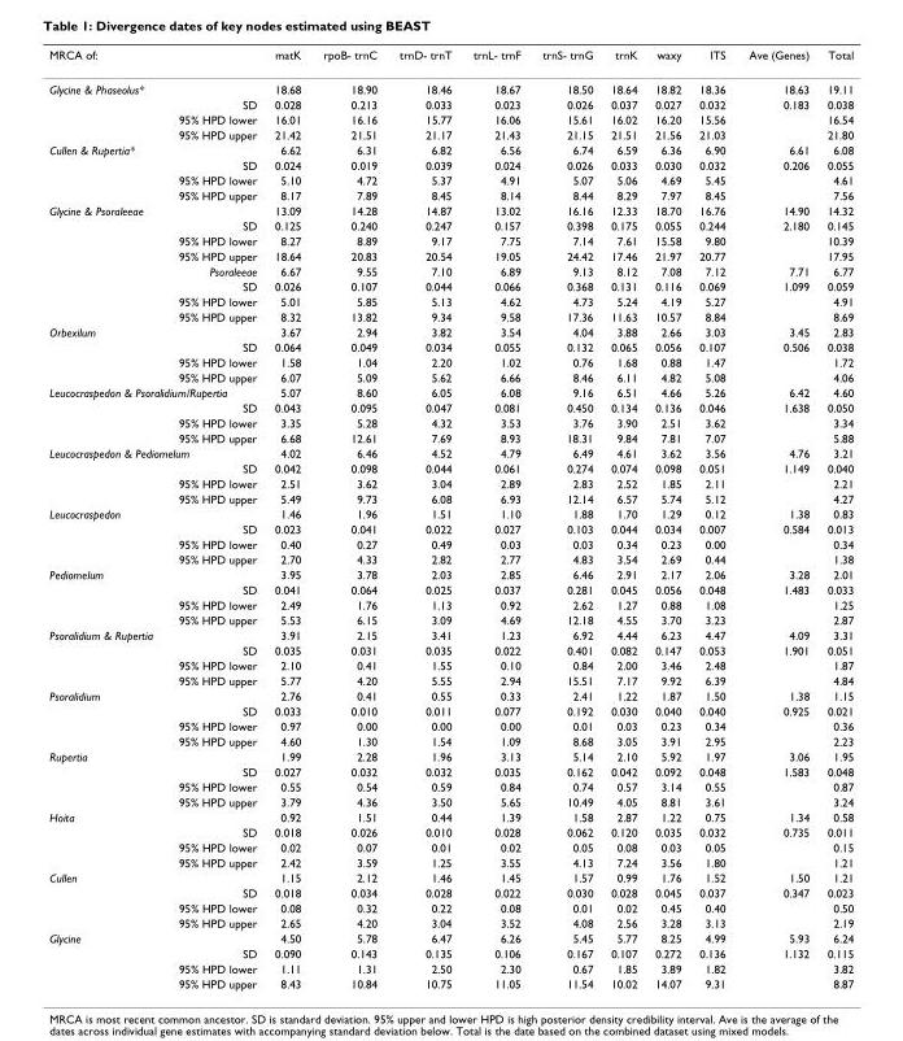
<table><thead><tr><td>MRCA of:</td><td>matK</td><td>rpoB- trnC</td><td>trnD- trnT</td><td>trnL- trnF</td><td>trnS- trnG</td><td>trnK</td><td>waxy</td><td>ITS</td><td>Ave (Genes)</td><td>Total</td></tr></thead><tbody><tr><td>Glycine &amp; Phaseolus*</td><td>18.68</td><td>18.90</td><td>18.46</td><td>18.67</td><td>18.50</td><td>18.64</td><td>18.82</td><td>18.36</td><td>18.63</td><td>19.11</td></tr><tr><td>SD</td><td>0.028</td><td>0.213</td><td>0.033</td><td>0.023</td><td>0.026</td><td>0.037</td><td>0.027</td><td>0.032</td><td>0.183</td><td>0.038</td></tr><tr><td>95% HPD lower</td><td>16.01</td><td>16.16</td><td>15.77</td><td>16.06</td><td>15.61</td><td>16.02</td><td>16.20</td><td>15.56</td><td></td><td>16.54</td></tr><tr><td>95% HPD upper</td><td>21.42</td><td>21.51</td><td>21.17</td><td>21.43</td><td>21.15</td><td>21.51</td><td>21.56</td><td>21.03</td><td></td><td>21.80</td></tr><tr><td>Cullen &amp; Rupertia*</td><td>6.62</td><td>6.31</td><td>6.82</td><td>6.56</td><td>6.74</td><td>6.59</td><td>6.36</td><td>6.90</td><td>6.61</td><td>6.08</td></tr><tr><td>SD</td><td>0.024</td><td>0.019</td><td>0.039</td><td>0.024</td><td>0.026</td><td>0.033</td><td>0.030</td><td>0.032</td><td>0.206</td><td>0.055</td></tr><tr><td>95% HPD lower</td><td>5.10</td><td>4.72</td><td>5.37</td><td>4.91</td><td>5.07</td><td>5.06</td><td>4.69</td><td>5.45</td><td></td><td>4.61</td></tr><tr><td>95% HPD upper</td><td>8.17</td><td>7.89</td><td>8.45</td><td>8.14</td><td>8.44</td><td>8.29</td><td>7.97</td><td>8.45</td><td></td><td>7.56</td></tr><tr><td>Glycine &amp; Psoraleeae</td><td>13.09</td><td>14.28</td><td>14.87</td><td>13.02</td><td>16.16</td><td>12.33</td><td>18.70</td><td>16.76</td><td>14.90</td><td>14.32</td></tr><tr><td>SD</td><td>0.125</td><td>0.240</td><td>0.247</td><td>0.157</td><td>0.398</td><td>0.175</td><td>0.055</td><td>0.244</td><td>2.180</td><td>0.145</td></tr><tr><td>95% HPD lower</td><td>8.27</td><td>8.89</td><td>9.17</td><td>7.75</td><td>7.14</td><td>7.61</td><td>15.58</td><td>9.80</td><td></td><td>10.39</td></tr><tr><td>95% HPD upper</td><td>18.64</td><td>20.83</td><td>20.54</td><td>19.05</td><td>24.42</td><td>17.46</td><td>21.97</td><td>20.77</td><td></td><td>17.95</td></tr><tr><td>Psoraleeae</td><td>6.67</td><td>9.55</td><td>7.10</td><td>6.89</td><td>9.13</td><td>8.12</td><td>7.08</td><td>7.12</td><td>7.71</td><td>6.77</td></tr><tr><td>SD</td><td>0.026</td><td>0.107</td><td>0.044</td><td>0.066</td><td>0.368</td><td>0.131</td><td>0.116</td><td>0.069</td><td>1.099</td><td>0.059</td></tr><tr><td>95% HPD lower</td><td>5.01</td><td>5.85</td><td>5.13</td><td>4.62</td><td>4.73</td><td>5.24</td><td>4.19</td><td>5.27</td><td></td><td>4.91</td></tr><tr><td>95% HPD upper</td><td>8.32</td><td>13.82</td><td>9.34</td><td>9.58</td><td>17.36</td><td>11.63</td><td>10.57</td><td>8.84</td><td></td><td>8.69</td></tr><tr><td>Orbexilum</td><td>3.67</td><td>2.94</td><td>3.82</td><td>3.54</td><td>4.04</td><td>3.88</td><td>2.66</td><td>3.03</td><td>3.45</td><td>2.83</td></tr><tr><td>SD</td><td>0.064</td><td>0.049</td><td>0.034</td><td>0.055</td><td>0.132</td><td>0.065</td><td>0.056</td><td>0.107</td><td>0.506</td><td>0.038</td></tr><tr><td>95% HPD lower</td><td>1.58</td><td>1.04</td><td>2.20</td><td>1.02</td><td>0.76</td><td>1.68</td><td>0.88</td><td>1.47</td><td></td><td>1.72</td></tr><tr><td>95% HPD upper</td><td>6.07</td><td>5.09</td><td>5.62</td><td>6.66</td><td>8.46</td><td>6.11</td><td>4.82</td><td>5.08</td><td></td><td>4.06</td></tr><tr><td>Leucocraspedon &amp; Psoralidium/Rupertia</td><td>5.07</td><td>8.60</td><td>6.05</td><td>6.08</td><td>9.16</td><td>6.51</td><td>4.66</td><td>5.26</td><td>6.42</td><td>4.60</td></tr><tr><td>SD</td><td>0.043</td><td>0.095</td><td>0.047</td><td>0.081</td><td>0.450</td><td>0.134</td><td>0.136</td><td>0.046</td><td>1.638</td><td>0.050</td></tr><tr><td>95% HPD lower</td><td>3.35</td><td>5.28</td><td>4.32</td><td>3.53</td><td>3.76</td><td>3.90</td><td>2.51</td><td>3.62</td><td></td><td>3.34</td></tr><tr><td>95% HPD upper</td><td>6.68</td><td>12.61</td><td>7.69</td><td>8.93</td><td>18.31</td><td>9.84</td><td>7.81</td><td>7.07</td><td></td><td>5.88</td></tr><tr><td>Leucocraspedon &amp; Pediomelum</td><td>4.02</td><td>6.46</td><td>4.52</td><td>4.79</td><td>6.49</td><td>4.61</td><td>3.62</td><td>3.56</td><td>4.76</td><td>3.21</td></tr><tr><td>SD</td><td>0.042</td><td>0.098</td><td>0.044</td><td>0.061</td><td>0.274</td><td>0.074</td><td>0.098</td><td>0.051</td><td>1.149</td><td>0.040</td></tr><tr><td>95% HPD lower</td><td>2.51</td><td>3.62</td><td>3.04</td><td>2.89</td><td>2.83</td><td>2.52</td><td>1.85</td><td>2.11</td><td></td><td>2.21</td></tr><tr><td>95% HPD upper</td><td>5.49</td><td>9.73</td><td>6.08</td><td>6.93</td><td>12.14</td><td>6.57</td><td>5.74</td><td>5.12</td><td></td><td>4.27</td></tr><tr><td>Leucocraspedon</td><td>1.46</td><td>1.96</td><td>1.51</td><td>1.10</td><td>1.88</td><td>1.70</td><td>1.29</td><td>0.12</td><td>1.38</td><td>0.83</td></tr><tr><td>SD</td><td>0.023</td><td>0.041</td><td>0.022</td><td>0.027</td><td>0.103</td><td>0.044</td><td>0.034</td><td>0.007</td><td>0.584</td><td>0.013</td></tr><tr><td>95% HPD lower</td><td>0.40</td><td>0.27</td><td>0.49</td><td>0.03</td><td>0.03</td><td>0.34</td><td>0.23</td><td>0.00</td><td></td><td>0.34</td></tr><tr><td>95% HPD upper</td><td>2.70</td><td>4.33</td><td>2.82</td><td>2.77</td><td>4.83</td><td>3.54</td><td>2.69</td><td>0.44</td><td></td><td>1.38</td></tr><tr><td>Pediomelum</td><td>3.95</td><td>3.78</td><td>2.03</td><td>2.85</td><td>6.46</td><td>2.91</td><td>2.17</td><td>2.06</td><td>3.28</td><td>2.01</td></tr><tr><td>SD</td><td>0.041</td><td>0.064</td><td>0.025</td><td>0.037</td><td>0.281</td><td>0.045</td><td>0.056</td><td>0.048</td><td>1.483</td><td>0.033</td></tr><tr><td>95% HPD lower</td><td>2.49</td><td>1.76</td><td>1.13</td><td>0.92</td><td>2.62</td><td>1.27</td><td>0.88</td><td>1.08</td><td></td><td>1.25</td></tr><tr><td>95% HPD upper</td><td>5.53</td><td>6.15</td><td>3.09</td><td>4.69</td><td>12.18</td><td>4.55</td><td>3.70</td><td>3.23</td><td></td><td>2.87</td></tr><tr><td>Psoralidium &amp; Rupertia</td><td>3.91</td><td>2.15</td><td>3.41</td><td>1.23</td><td>6.92</td><td>4.44</td><td>6.23</td><td>4.47</td><td>4.09</td><td>3.31</td></tr><tr><td>SD</td><td>0.035</td><td>0.031</td><td>0.035</td><td>0.022</td><td>0.401</td><td>0.082</td><td>0.147</td><td>0.053</td><td>1.901</td><td>0.051</td></tr><tr><td>95% HPD lower</td><td>2.10</td><td>0.41</td><td>1.55</td><td>0.10</td><td>0.84</td><td>2.00</td><td>3.46</td><td>2.48</td><td></td><td>1.87</td></tr><tr><td>95% HPD upper</td><td>5.77</td><td>4.20</td><td>5.55</td><td>2.94</td><td>15.51</td><td>7.17</td><td>9.92</td><td>6.39</td><td></td><td>4.84</td></tr><tr><td>Psoralidium</td><td>2.76</td><td>0.41</td><td>0.55</td><td>0.33</td><td>2.41</td><td>1.22</td><td>1.87</td><td>1.50</td><td>1.38</td><td>1.15</td></tr><tr><td>SD</td><td>0.033</td><td>0.010</td><td>0.011</td><td>0.077</td><td>0.192</td><td>0.030</td><td>0.040</td><td>0.040</td><td>0.925</td><td>0.021</td></tr><tr><td>95% HPD lower</td><td>0.97</td><td>0.00</td><td>0.00</td><td>0.00</td><td>0.01</td><td>0.03</td><td>0.23</td><td>0.34</td><td></td><td>0.36</td></tr><tr><td>95% HPD upper</td><td>4.60</td><td>1.30</td><td>1.54</td><td>1.09</td><td>8.68</td><td>3.05</td><td>3.91</td><td>2.95</td><td></td><td>2.23</td></tr><tr><td>Rupertia</td><td>1.99</td><td>2.28</td><td>1.96</td><td>3.13</td><td>5.14</td><td>2.10</td><td>5.92</td><td>1.97</td><td>3.06</td><td>1.95</td></tr><tr><td>SD</td><td>0.027</td><td>0.032</td><td>0.032</td><td>0.035</td><td>0.162</td><td>0.042</td><td>0.092</td><td>0.048</td><td>1.583</td><td>0.048</td></tr><tr><td>95% HPD lower</td><td>0.55</td><td>0.54</td><td>0.59</td><td>0.84</td><td>0.74</td><td>0.57</td><td>3.14</td><td>0.55</td><td></td><td>0.87</td></tr><tr><td>95% HPD upper</td><td>3.79</td><td>4.36</td><td>3.50</td><td>5.65</td><td>10.49</td><td>4.05</td><td>8.81</td><td>3.61</td><td></td><td>3.24</td></tr><tr><td>Hoita</td><td>0.92</td><td>1.51</td><td>0.44</td><td>1.39</td><td>1.58</td><td>2.87</td><td>1.22</td><td>0.75</td><td>1.34</td><td>0.58</td></tr><tr><td>SD</td><td>0.018</td><td>0.026</td><td>0.010</td><td>0.028</td><td>0.062</td><td>0.120</td><td>0.035</td><td>0.032</td><td>0.735</td><td>0.011</td></tr><tr><td>95% HPD lower</td><td>0.02</td><td>0.07</td><td>0.01</td><td>0.02</td><td>0.05</td><td>0.08</td><td>0.03</td><td>0.05</td><td></td><td>0.15</td></tr><tr><td>95% HPD upper</td><td>2.42</td><td>3.59</td><td>1.25</td><td>3.55</td><td>4.13</td><td>7.24</td><td>3.56</td><td>1.80</td><td></td><td>1.21</td></tr><tr><td>Cullen</td><td>1.15</td><td>2.12</td><td>1.46</td><td>1.45</td><td>1.57</td><td>0.99</td><td>1.76</td><td>1.52</td><td>1.50</td><td>1.21</td></tr><tr><td>SD</td><td>0.018</td><td>0.034</td><td>0.028</td><td>0.022</td><td>0.030</td><td>0.028</td><td>0.045</td><td>0.037</td><td>0.347</td><td>0.023</td></tr><tr><td>95% HPD lower</td><td>0.08</td><td>0.32</td><td>0.22</td><td>0.08</td><td>0.01</td><td>0.02</td><td>0.45</td><td>0.40</td><td></td><td>0.50</td></tr><tr><td>95% HPD upper</td><td>2.65</td><td>4.20</td><td>3.04</td><td>3.52</td><td>4.08</td><td>2.56</td><td>3.28</td><td>3.13</td><td></td><td>2.19</td></tr><tr><td>Glycine</td><td>4.50</td><td>5.78</td><td>6.47</td><td>6.26</td><td>5.45</td><td>5.77</td><td>8.25</td><td>4.99</td><td>5.93</td><td>6.24</td></tr><tr><td>SD</td><td>0.090</td><td>0.143</td><td>0.135</td><td>0.106</td><td>0.167</td><td>0.107</td><td>0.272</td><td>0.136</td><td>1.132</td><td>0.115</td></tr><tr><td>95% HPD lower</td><td>1.11</td><td>1.31</td><td>2.50</td><td>2.30</td><td>0.67</td><td>1.85</td><td>3.89</td><td>1.82</td><td></td><td>3.82</td></tr><tr><td>95% HPD upper</td><td>8.43</td><td>10.84</td><td>10.75</td><td>11.05</td><td>11.54</td><td>10.02</td><td>14.07</td><td>9.31</td><td></td><td>8.87</td></tr></tbody></table>